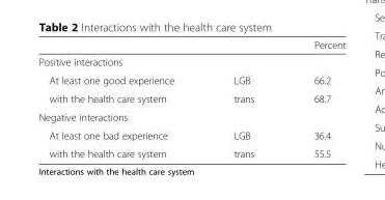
<table><thead><tr><td></td><td></td><td>Percent</td></tr></thead><tbody><tr><td colspan="3">Positive interactions</td></tr><tr><td>At least one good experience</td><td>LGB</td><td>66.2</td></tr><tr><td>with the health care system</td><td>trans</td><td>68.7</td></tr><tr><td colspan="3">Negative interactions</td></tr><tr><td>At least one bad experience</td><td>LGB</td><td>36.4</td></tr><tr><td>with the health care system</td><td>trans</td><td>55.5</td></tr></tbody></table>